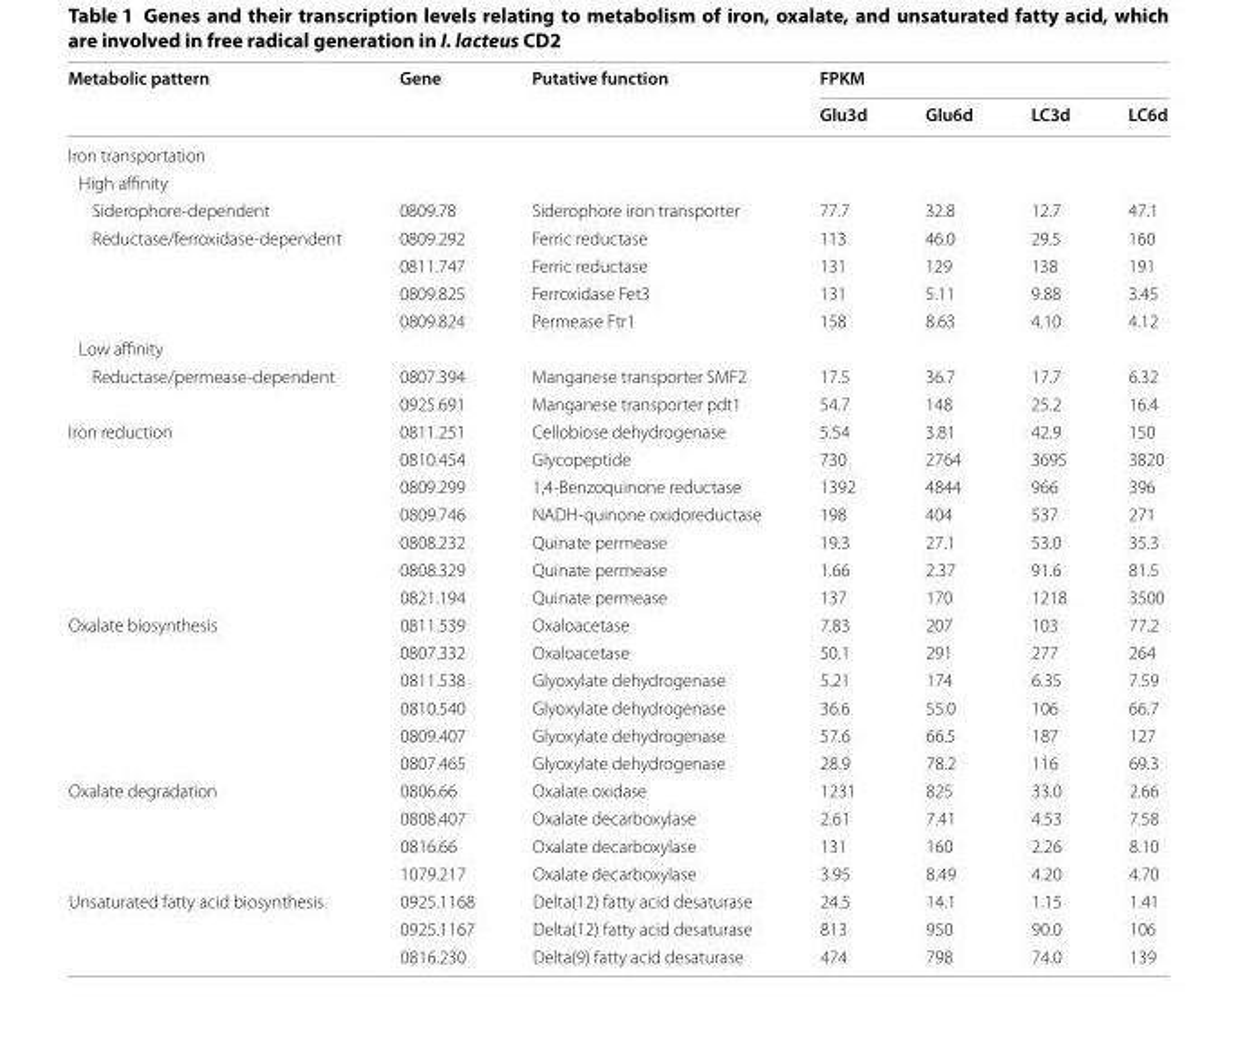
<table><thead><tr><td rowspan="2">Metabolic pattern</td><td rowspan="2">Gene</td><td rowspan="2">Putative function</td><td colspan="4">FPKM</td></tr><tr><td>Glu3d</td><td>Glu6d</td><td>LC3d</td><td>LC6d</td></tr></thead><tbody><tr><td colspan="7">Iron transportation</td></tr><tr><td colspan="7">High affinity</td></tr><tr><td>Siderophore-dependent</td><td>0809.78</td><td>Siderophore iron transporter</td><td>77.7</td><td>32.8</td><td>12.7</td><td>47.1</td></tr><tr><td rowspan="4">Reductase/ferroxidase-dependent</td><td>0809.292</td><td>Ferric reductase</td><td>113</td><td>46.0</td><td>29.5</td><td>160</td></tr><tr><td>0811.747</td><td>Ferric reductase</td><td>131</td><td>129</td><td>138</td><td>191</td></tr><tr><td>0809.825</td><td>Ferroxidase Fet3</td><td>131</td><td>5.11</td><td>9.88</td><td>3.45</td></tr><tr><td>0809.824</td><td>Permease Ftr1</td><td>158</td><td>8.63</td><td>4.10</td><td>4.12</td></tr><tr><td colspan="7">Low affinity</td></tr><tr><td rowspan="2">Reductase/permease-dependent</td><td>0807.394</td><td>Manganese transporter SMF2</td><td>17.5</td><td>36.7</td><td>17.7</td><td>6.32</td></tr><tr><td>0925.691</td><td>Manganese transporter pdt1</td><td>54.7</td><td>148</td><td>25.2</td><td>16.4</td></tr><tr><td rowspan="7">Iron reduction</td><td>0811.251</td><td>Cellobiose dehydrogenase</td><td>5.54</td><td>3.81</td><td>42.9</td><td>150</td></tr><tr><td>0810.454</td><td>Glycopeptide</td><td>730</td><td>2764</td><td>3695</td><td>3820</td></tr><tr><td>0809.299</td><td>1,4-Benzoquinone reductase</td><td>1392</td><td>4844</td><td>966</td><td>396</td></tr><tr><td>0809.746</td><td>NADH-quinone oxidoreductase</td><td>198</td><td>404</td><td>537</td><td>271</td></tr><tr><td>0808.232</td><td>Quinate permease</td><td>19.3</td><td>27.1</td><td>53.0</td><td>35.3</td></tr><tr><td>0808.329</td><td>Quinate permease</td><td>1.66</td><td>2.37</td><td>91.6</td><td>81.5</td></tr><tr><td>0821.194</td><td>Quinate permease</td><td>137</td><td>170</td><td>1218</td><td>3500</td></tr><tr><td rowspan="6">Oxalate biosynthesis</td><td>0811.539</td><td>Oxaloacetase</td><td>7.83</td><td>207</td><td>103</td><td>77.2</td></tr><tr><td>0807.332</td><td>Oxaloacetase</td><td>50.1</td><td>291</td><td>277</td><td>264</td></tr><tr><td>0811.538</td><td>Glyoxylate dehydrogenase</td><td>5.21</td><td>174</td><td>6.35</td><td>7.59</td></tr><tr><td>0810.540</td><td>Glyoxylate dehydrogenase</td><td>36.6</td><td>55.0</td><td>106</td><td>66.7</td></tr><tr><td>0809.407</td><td>Glyoxylate dehydrogenase</td><td>57.6</td><td>66.5</td><td>187</td><td>127</td></tr><tr><td>0807.465</td><td>Glyoxylate dehydrogenase</td><td>28.9</td><td>78.2</td><td>116</td><td>69.3</td></tr><tr><td rowspan="4">Oxalate degradation</td><td>0806.66</td><td>Oxalate oxidase</td><td>1231</td><td>825</td><td>33.0</td><td>2.66</td></tr><tr><td>0808.407</td><td>Oxalate decarboxylase</td><td>2.61</td><td>7.41</td><td>4.53</td><td>7.58</td></tr><tr><td>0816.66</td><td>Oxalate decarboxylase</td><td>131</td><td>160</td><td>2.26</td><td>8.10</td></tr><tr><td>1079.217</td><td>Oxalate decarboxylase</td><td>3.95</td><td>8.49</td><td>4.20</td><td>4.70</td></tr><tr><td rowspan="3">Unsaturated fatty acid biosynthesis</td><td>0925.1168</td><td>Delta(12) fatty acid desaturase</td><td>24.5</td><td>14.1</td><td>1.15</td><td>1.41</td></tr><tr><td>0925.1167</td><td>Delta(12) fatty acid desaturase</td><td>813</td><td>950</td><td>90.0</td><td>106</td></tr><tr><td>0816.230</td><td>Delta(9) fatty acid desaturase</td><td>474</td><td>798</td><td>74.0</td><td>139</td></tr></tbody></table>